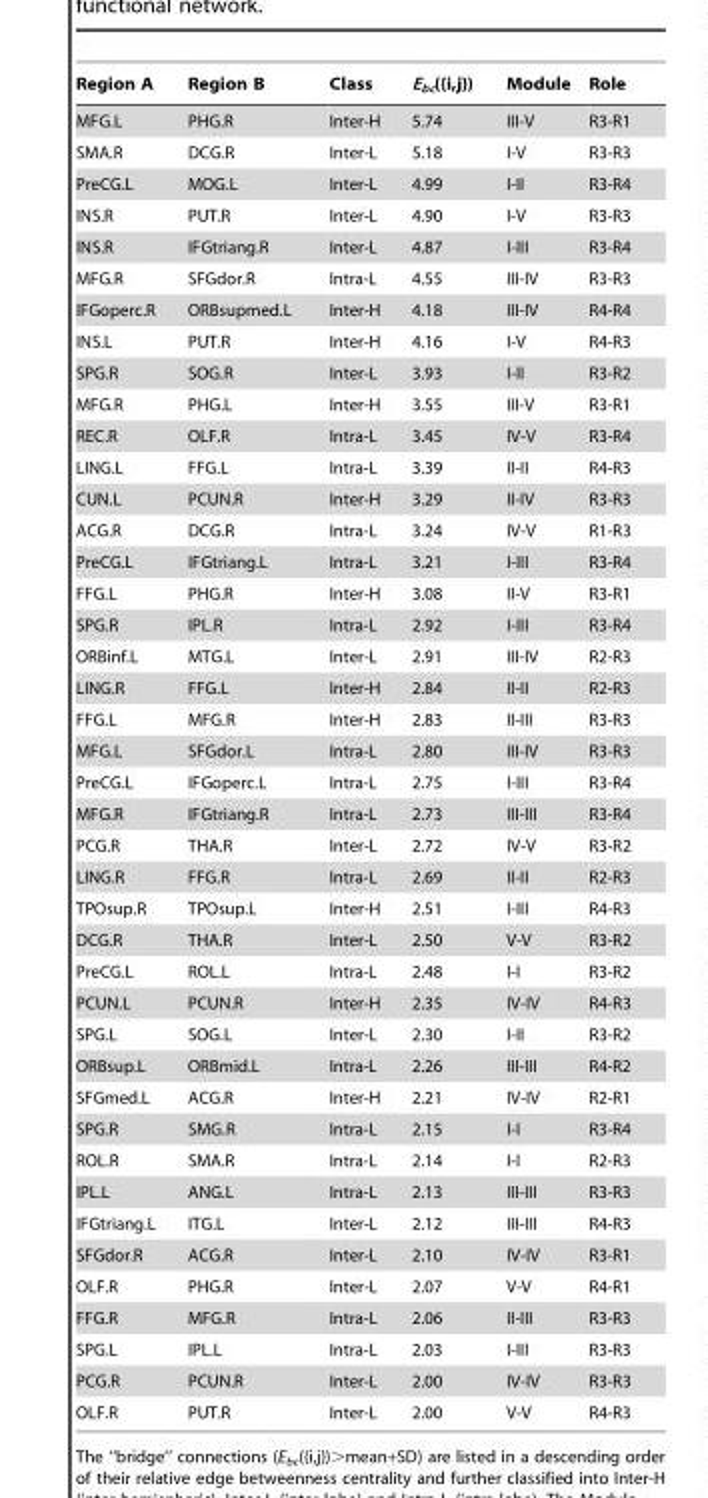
<table><thead><tr><td>Region A</td><td>Region B</td><td>Class</td><td>E<sub>bc</sub>({i,j})</td><td>Module</td><td>Role</td></tr></thead><tbody><tr><td>MFG.L</td><td>PHG.R</td><td>Inter-H</td><td>5.74</td><td>III-V</td><td>R3-R1</td></tr><tr><td>SMA.R</td><td>DCG.R</td><td>Inter-L</td><td>5.18</td><td>I-V</td><td>R3-R3</td></tr><tr><td>PreCG.L</td><td>MOG.L</td><td>Inter-L</td><td>4.99</td><td>I-II</td><td>R3-R4</td></tr><tr><td>INS.R</td><td>PUT.R</td><td>Inter-L</td><td>4.90</td><td>I-V</td><td>R3-R3</td></tr><tr><td>INS.R</td><td>IFGtriang.R</td><td>Inter-L</td><td>4.87</td><td>I-III</td><td>R3-R4</td></tr><tr><td>MFG.R</td><td>SFGdor.R</td><td>Intra-L</td><td>4.55</td><td>III-IV</td><td>R3-R3</td></tr><tr><td>IFGoperc.R</td><td>ORBsupmed.L</td><td>Inter-H</td><td>4.18</td><td>III-IV</td><td>R4-R4</td></tr><tr><td>INS.L</td><td>PUT.R</td><td>Inter-H</td><td>4.16</td><td>I-V</td><td>R4-R3</td></tr><tr><td>SPG.R</td><td>SOG.R</td><td>Inter-L</td><td>3.93</td><td>I-II</td><td>R3-R2</td></tr><tr><td>MFG.R</td><td>PHG.L</td><td>Inter-H</td><td>3.55</td><td>III-V</td><td>R3-R1</td></tr><tr><td>REC.R</td><td>OLF.R</td><td>Intra-L</td><td>3.45</td><td>IV-V</td><td>R3-R4</td></tr><tr><td>LING.L</td><td>FFG.L</td><td>Intra-L</td><td>3.39</td><td>II-II</td><td>R4-R3</td></tr><tr><td>CUN.L</td><td>PCUN.R</td><td>Inter-H</td><td>3.29</td><td>II-IV</td><td>R3-R3</td></tr><tr><td>ACG.R</td><td>DCG.R</td><td>Intra-L</td><td>3.24</td><td>IV-V</td><td>R1-R3</td></tr><tr><td>PreCG.L</td><td>IFGtriang.L</td><td>Intra-L</td><td>3.21</td><td>I-III</td><td>R3-R4</td></tr><tr><td>FFG.L</td><td>PHG.R</td><td>Inter-H</td><td>3.08</td><td>II-V</td><td>R3-R1</td></tr><tr><td>SPG.R</td><td>IPL.R</td><td>Intra-L</td><td>2.92</td><td>I-III</td><td>R3-R4</td></tr><tr><td>ORBinf.L</td><td>MTG.L</td><td>Inter-L</td><td>2.91</td><td>III-IV</td><td>R2-R3</td></tr><tr><td>LING.R</td><td>FFG.L</td><td>Inter-H</td><td>2.84</td><td>II-II</td><td>R2-R3</td></tr><tr><td>FFG.L</td><td>MFG.R</td><td>Inter-H</td><td>2.83</td><td>II-III</td><td>R3-R3</td></tr><tr><td>MFG.L</td><td>SFGdor.L</td><td>Intra-L</td><td>2.80</td><td>III-IV</td><td>R3-R3</td></tr><tr><td>PreCG.L</td><td>IFGoperc.L</td><td>Intra-L</td><td>2.75</td><td>I-III</td><td>R3-R4</td></tr><tr><td>MFG.R</td><td>IFGtriang.R</td><td>Intra-L</td><td>2.73</td><td>III-III</td><td>R3-R4</td></tr><tr><td>PCG.R</td><td>THA.R</td><td>Inter-L</td><td>2.72</td><td>IV-V</td><td>R3-R2</td></tr><tr><td>LING.R</td><td>FFG.R</td><td>Intra-L</td><td>2.69</td><td>II-II</td><td>R2-R3</td></tr><tr><td>TPOsup.R</td><td>TPOsup.L</td><td>Inter-H</td><td>2.51</td><td>I-III</td><td>R4-R3</td></tr><tr><td>DCG.R</td><td>THA.R</td><td>Inter-L</td><td>2.50</td><td>V-V</td><td>R3-R2</td></tr><tr><td>PreCG.L</td><td>ROL.L</td><td>Intra-L</td><td>2.48</td><td>I-I</td><td>R3-R2</td></tr><tr><td>PCUN.L</td><td>PCUN.R</td><td>Inter-H</td><td>2.35</td><td>IV-IV</td><td>R4-R3</td></tr><tr><td>SPG.L</td><td>SOG.L</td><td>Inter-L</td><td>2.30</td><td>I-II</td><td>R3-R2</td></tr><tr><td>ORBsup.L</td><td>ORBmid.L</td><td>Intra-L</td><td>2.26</td><td>III-III</td><td>R4-R2</td></tr><tr><td>SFGmed.L</td><td>ACG.R</td><td>Inter-H</td><td>2.21</td><td>IV-IV</td><td>R2-R1</td></tr><tr><td>SPG.R</td><td>SMG.R</td><td>Intra-L</td><td>2.15</td><td>I-I</td><td>R3-R4</td></tr><tr><td>ROL.R</td><td>SMA.R</td><td>Intra-L</td><td>2.14</td><td>I-I</td><td>R2-R3</td></tr><tr><td>IPL.L</td><td>ANG.L</td><td>Intra-L</td><td>2.13</td><td>III-III</td><td>R3-R3</td></tr><tr><td>IFGtriang.L</td><td>ITG.L</td><td>Inter-L</td><td>2.12</td><td>III-III</td><td>R4-R3</td></tr><tr><td>SFGdor.R</td><td>ACG.R</td><td>Inter-L</td><td>2.10</td><td>IV-IV</td><td>R3-R1</td></tr><tr><td>OLF.R</td><td>PHG.R</td><td>Inter-L</td><td>2.07</td><td>V-V</td><td>R4-R1</td></tr><tr><td>FFG.R</td><td>MFG.R</td><td>Intra-L</td><td>2.06</td><td>II-III</td><td>R3-R3</td></tr><tr><td>SPG.L</td><td>IPL.L</td><td>Intra-L</td><td>2.03</td><td>I-III</td><td>R3-R3</td></tr><tr><td>PCG.R</td><td>PCUN.R</td><td>Inter-L</td><td>2.00</td><td>IV-IV</td><td>R3-R3</td></tr><tr><td>OLF.R</td><td>PUT.R</td><td>Inter-L</td><td>2.00</td><td>V-V</td><td>R4-R3</td></tr></tbody></table>